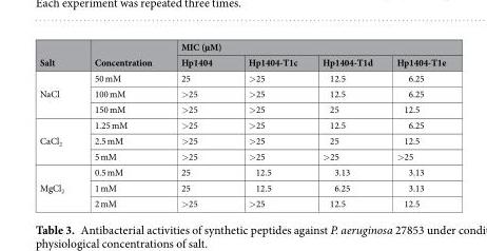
<table><thead><tr><td rowspan="2">Salt</td><td rowspan="2">Concentration</td><td colspan="4">MIC (µM)</td></tr><tr><td>Hp1404</td><td>Hp1404-T1c</td><td>Hp1404-T1d</td><td>Hp1404-T1e</td></tr></thead><tbody><tr><td rowspan="3">NaCl</td><td>50 mM</td><td>25</td><td>&gt;25</td><td>12.5</td><td>6.25</td></tr><tr><td>100 mM</td><td>&gt;25</td><td>&gt;25</td><td>12.5</td><td>6.25</td></tr><tr><td>150 mM</td><td>&gt;25</td><td>&gt;25</td><td>25</td><td>12.5</td></tr><tr><td rowspan="3">CaCl<sub>2</sub></td><td>1.25 mM</td><td>&gt;25</td><td>&gt;25</td><td>12.5</td><td>6.25</td></tr><tr><td>2.5 mM</td><td>&gt;25</td><td>&gt;25</td><td>25</td><td>12.5</td></tr><tr><td>5 mM</td><td>&gt;25</td><td>&gt;25</td><td>&gt;25</td><td>&gt;25</td></tr><tr><td rowspan="3">MgCl<sub>2</sub></td><td>0.5 mM</td><td>25</td><td>12.5</td><td>3.13</td><td>3.13</td></tr><tr><td>1 mM</td><td>25</td><td>12.5</td><td>6.25</td><td>3.13</td></tr><tr><td>2 mM</td><td>&gt;25</td><td>&gt;25</td><td>12.5</td><td>12.5</td></tr></tbody></table>